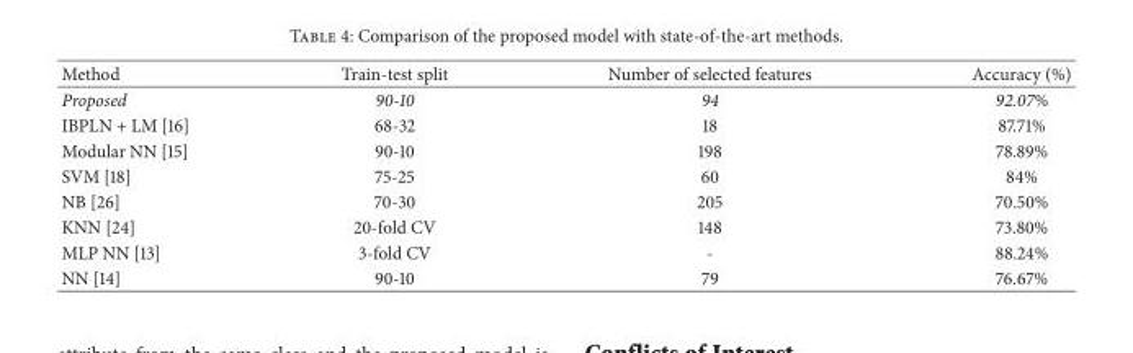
<table><thead><tr><td>Method</td><td>Train-test split</td><td>Number of selected features</td><td>Accuracy (%)</td></tr></thead><tbody><tr><td>Proposed</td><td>90-10</td><td>94</td><td>92.07%</td></tr><tr><td>IBPLN + LM [16]</td><td>68-32</td><td>18</td><td>87.71%</td></tr><tr><td>Modular NN [15]</td><td>90-10</td><td>198</td><td>78.89%</td></tr><tr><td>SVM [18]</td><td>75-25</td><td>60</td><td>84%</td></tr><tr><td>NB [26]</td><td>70-30</td><td>205</td><td>70.50%</td></tr><tr><td>KNN [24]</td><td>20-fold CV</td><td>148</td><td>73.80%</td></tr><tr><td>MLP NN [13]</td><td>3-fold CV</td><td>-</td><td>88.24%</td></tr><tr><td>NN [14]</td><td>90-10</td><td>79</td><td>76.67%</td></tr></tbody></table>